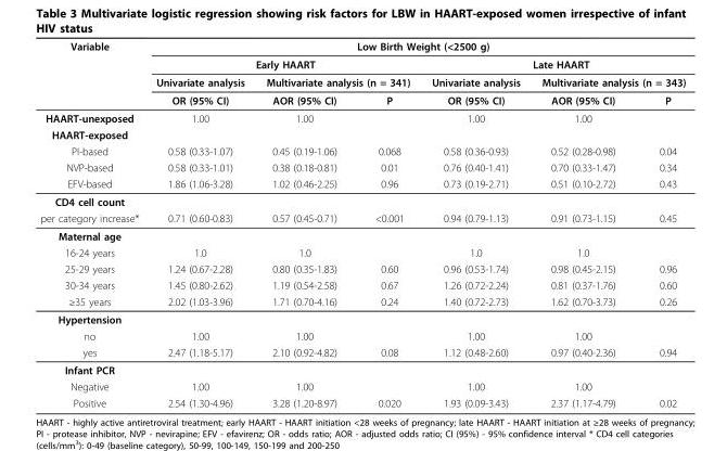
<table><thead><tr><td rowspan="4">Variable</td><td colspan="6">Low Birth Weight (&lt;2500 g)</td></tr><tr><td colspan="3">Early HAART</td><td colspan="3">Late HAART</td></tr><tr><td rowspan="2">Univariate analysis OR (95% CI)</td><td colspan="2">Multivariate analysis (n = 341)</td><td rowspan="2">Univariate analysis OR (95% CI)</td><td colspan="2">Multivariate analysis (n = 343)</td></tr><tr><td>AOR (95% CI)</td><td>P</td><td>AOR (95% CI)</td><td>P</td></tr></thead><tbody><tr><td>HAART-unexposed</td><td>1.00</td><td>1.00</td><td></td><td>1.00</td><td>1.00</td><td></td></tr><tr><td colspan="7">HAART-exposed</td></tr><tr><td>PI-based</td><td>0.58 (0.33-1.07)</td><td>0.45 (0.19-1.06)</td><td>0.068</td><td>0.58 (0.36-0.93)</td><td>0.52 (0.28-0.98)</td><td>0.04</td></tr><tr><td>NVP-based</td><td>0.58 (0.33-1.01)</td><td>0.38 (0.18-0.81)</td><td>0.01</td><td>0.76 (0.40-1.41)</td><td>0.70 (0.33-1.47)</td><td>0.34</td></tr><tr><td>EFV-based</td><td>1.86 (1.06-3.28)</td><td>1.02 (0.46-2.25)</td><td>0.96</td><td>0.73 (0.19-2.71)</td><td>0.51 (0.10-2.72)</td><td>0.43</td></tr><tr><td colspan="7">CD4 cell count</td></tr><tr><td>per category increase*</td><td>0.71 (0.60-0.83)</td><td>0.57 (0.45-0.71)</td><td>&lt;0.001</td><td>0.94 (0.79-1.13)</td><td>0.91 (0.73-1.15)</td><td>0.45</td></tr><tr><td colspan="7">Maternal age</td></tr><tr><td>16-24 years</td><td>1.0</td><td>1.0</td><td></td><td>1.0</td><td>1.0</td><td></td></tr><tr><td>25-29 years</td><td>1.24 (0.67-2.28)</td><td>0.80 (0.35-1.83)</td><td>0.60</td><td>0.96 (0.53-1.74)</td><td>0.98 (0.45-2.15)</td><td>0.96</td></tr><tr><td>30-34 years</td><td>1.45 (0.80-2.62)</td><td>1.19 (0.54-2.58)</td><td>0.67</td><td>1.26 (0.72-2.24)</td><td>0.81 (0.37-1.76)</td><td>0.60</td></tr><tr><td>≥35 years</td><td>2.02 (1.03-3.96)</td><td>1.71 (0.70-4.16)</td><td>0.24</td><td>1.40 (0.72-2.73)</td><td>1.62 (0.70-3.73)</td><td>0.26</td></tr><tr><td colspan="7">Hypertension</td></tr><tr><td>no</td><td>1.00</td><td>1.00</td><td></td><td>1.00</td><td>1.00</td><td></td></tr><tr><td>yes</td><td>2.47 (1.18-5.17)</td><td>2.10 (0.92-4.82)</td><td>0.08</td><td>1.12 (0.48-2.60)</td><td>0.97 (0.40-2.36)</td><td>0.94</td></tr><tr><td colspan="7">Infant PCR</td></tr><tr><td>Negative</td><td>1.00</td><td>1.00</td><td></td><td>1.00</td><td>1.00</td><td></td></tr><tr><td>Positive</td><td>2.54 (1.30-4.96)</td><td>3.28 (1.20-8.97)</td><td>0.020</td><td>1.93 (0.09-3.43)</td><td>2.37 (1.17-4.79)</td><td>0.02</td></tr></tbody></table>